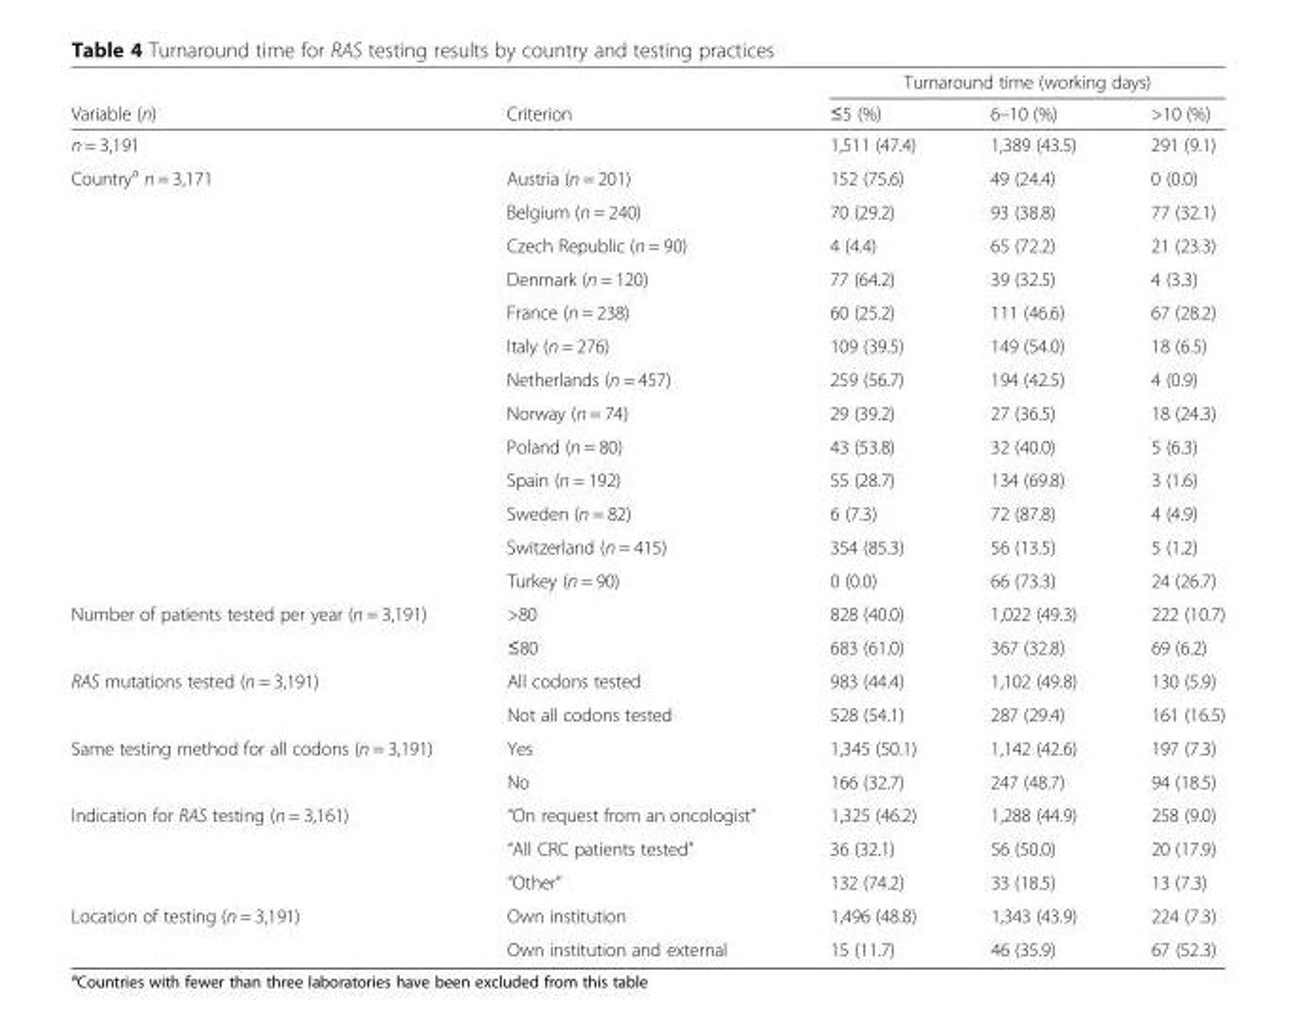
<table><thead><tr><td rowspan="2">Variable (n)</td><td rowspan="2">Criterion</td><td colspan="3">Turnaround time (working days)</td></tr><tr><td>≤5 (%)</td><td>6–10 (%)</td><td>&gt;10 (%)</td></tr></thead><tbody><tr><td>n = 3,191</td><td></td><td>1,511 (47.4)</td><td>1,389 (43.5)</td><td>291 (9.1)</td></tr><tr><td rowspan="13">Country<sup>a</sup> n = 3,171</td><td>Austria (n = 201)</td><td>152 (75.6)</td><td>49 (24.4)</td><td>0 (0.0)</td></tr><tr><td>Belgium (n = 240)</td><td>70 (29.2)</td><td>93 (38.8)</td><td>77 (32.1)</td></tr><tr><td>Czech Republic (n = 90)</td><td>4 (4.4)</td><td>65 (72.2)</td><td>21 (23.3)</td></tr><tr><td>Denmark (n = 120)</td><td>77 (64.2)</td><td>39 (32.5)</td><td>4 (3.3)</td></tr><tr><td>France (n = 238)</td><td>60 (25.2)</td><td>111 (46.6)</td><td>67 (28.2)</td></tr><tr><td>Italy (n = 276)</td><td>109 (39.5)</td><td>149 (54.0)</td><td>18 (6.5)</td></tr><tr><td>Netherlands (n = 457)</td><td>259 (56.7)</td><td>194 (42.5)</td><td>4 (0.9)</td></tr><tr><td>Norway (n = 74)</td><td>29 (39.2)</td><td>27 (36.5)</td><td>18 (24.3)</td></tr><tr><td>Poland (n = 80)</td><td>43 (53.8)</td><td>32 (40.0)</td><td>5 (6.3)</td></tr><tr><td>Spain (n = 192)</td><td>55 (28.7)</td><td>134 (69.8)</td><td>3 (1.6)</td></tr><tr><td>Sweden (n = 82)</td><td>6 (7.3)</td><td>72 (87.8)</td><td>4 (4.9)</td></tr><tr><td>Switzerland (n = 415)</td><td>354 (85.3)</td><td>56 (13.5)</td><td>5 (1.2)</td></tr><tr><td>Turkey (n = 90)</td><td>0 (0.0)</td><td>66 (73.3)</td><td>24 (26.7)</td></tr><tr><td rowspan="2">Number of patients tested per year (n = 3,191)</td><td>&gt;80</td><td>828 (40.0)</td><td>1,022 (49.3)</td><td>222 (10.7)</td></tr><tr><td>≤80</td><td>683 (61.0)</td><td>367 (32.8)</td><td>69 (6.2)</td></tr><tr><td rowspan="2">RAS mutations tested (n = 3,191)</td><td>All codons tested</td><td>983 (44.4)</td><td>1,102 (49.8)</td><td>130 (5.9)</td></tr><tr><td>Not all codons tested</td><td>528 (54.1)</td><td>287 (29.4)</td><td>161 (16.5)</td></tr><tr><td rowspan="2">Same testing method for all codons (n = 3,191)</td><td>Yes</td><td>1,345 (50.1)</td><td>1,142 (42.6)</td><td>197 (7.3)</td></tr><tr><td>No</td><td>166 (32.7)</td><td>247 (48.7)</td><td>94 (18.5)</td></tr><tr><td rowspan="3">Indication for RAS testing (n = 3,161)</td><td>“On request from an oncologist”</td><td>1,325 (46.2)</td><td>1,288 (44.9)</td><td>258 (9.0)</td></tr><tr><td>“All CRC patients tested”</td><td>36 (32.1)</td><td>56 (50.0)</td><td>20 (17.9)</td></tr><tr><td>“Other”</td><td>132 (74.2)</td><td>33 (18.5)</td><td>13 (7.3)</td></tr><tr><td rowspan="2">Location of testing (n = 3,191)</td><td>Own institution</td><td>1,496 (48.8)</td><td>1,343 (43.9)</td><td>224 (7.3)</td></tr><tr><td>Own institution and external</td><td>15 (11.7)</td><td>46 (35.9)</td><td>67 (52.3)</td></tr></tbody></table>